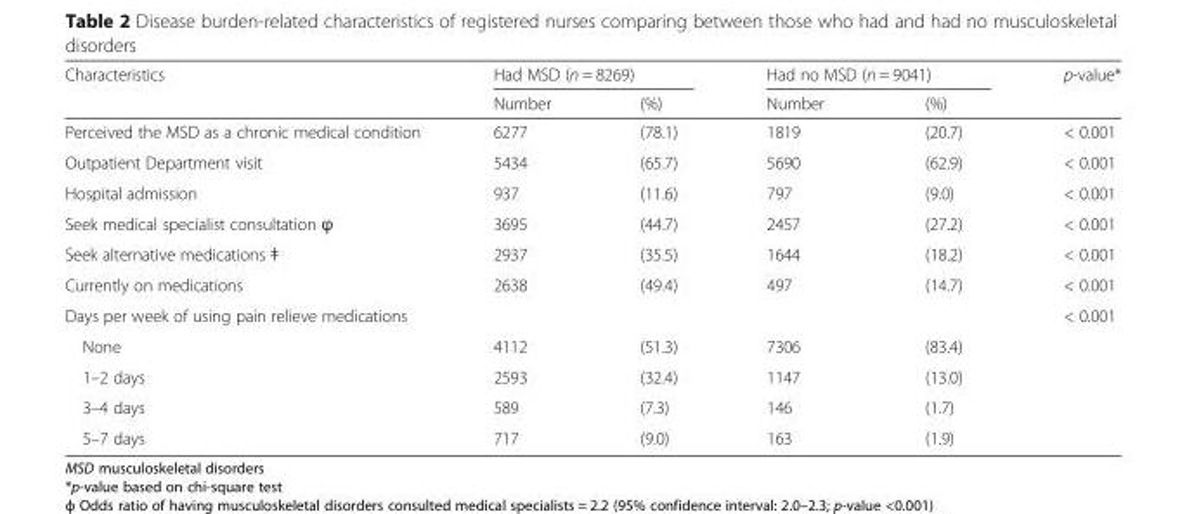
<table><thead><tr><td rowspan="2">Characteristics</td><td colspan="2">Had MSD (n = 8269)</td><td colspan="2">Had no MSD (n = 9041)</td><td rowspan="2">p-value*</td></tr><tr><td>Number</td><td>(%)</td><td>Number</td><td>(%)</td></tr></thead><tbody><tr><td>Perceived the MSD as a chronic medical condition</td><td>6277</td><td>(78.1)</td><td>1819</td><td>(20.7)</td><td>&lt; 0.001</td></tr><tr><td>Outpatient Department visit</td><td>5434</td><td>(65.7)</td><td>5690</td><td>(62.9)</td><td>&lt; 0.001</td></tr><tr><td>Hospital admission</td><td>937</td><td>(11.6)</td><td>797</td><td>(9.0)</td><td>&lt; 0.001</td></tr><tr><td>Seek medical specialist consultation ϕ</td><td>3695</td><td>(44.7)</td><td>2457</td><td>(27.2)</td><td>&lt; 0.001</td></tr><tr><td>Seek alternative medications ǂ</td><td>2937</td><td>(35.5)</td><td>1644</td><td>(18.2)</td><td>&lt; 0.001</td></tr><tr><td>Currently on medications</td><td>2638</td><td>(49.4)</td><td>497</td><td>(14.7)</td><td>&lt; 0.001</td></tr><tr><td>Days per week of using pain relieve medications</td><td></td><td></td><td></td><td></td><td>&lt; 0.001</td></tr><tr><td>None</td><td>4112</td><td>(51.3)</td><td>7306</td><td>(83.4)</td><td></td></tr><tr><td>1–2 days</td><td>2593</td><td>(32.4)</td><td>1147</td><td>(13.0)</td><td></td></tr><tr><td>3–4 days</td><td>589</td><td>(7.3)</td><td>146</td><td>(1.7)</td><td></td></tr><tr><td>5–7 days</td><td>717</td><td>(9.0)</td><td>163</td><td>(1.9)</td><td></td></tr></tbody></table>